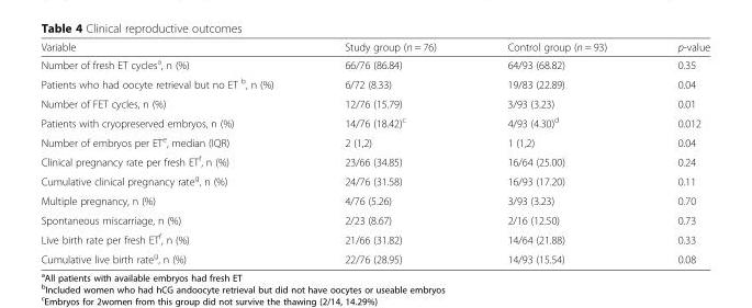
<table><thead><tr><td>Variable</td><td>Study group (n = 76)</td><td>Control group (n = 93)</td><td>p-value</td></tr></thead><tbody><tr><td>Number of fresh ET cycles<sup>a</sup>, n (%)</td><td>66/76 (86.84)</td><td>64/93 (68.82)</td><td>0.35</td></tr><tr><td>Patients who had oocyte retrieval but no ET <sup>b</sup>, n (%)</td><td>6/72 (8.33)</td><td>19/83 (22.89)</td><td>0.04</td></tr><tr><td>Number of FET cycles, n (%)</td><td>12/76 (15.79)</td><td>3/93 (3.23)</td><td>0.01</td></tr><tr><td>Patients with cryopreserved embryos, n (%)</td><td>14/76 (18.42)<sup>c</sup></td><td>4/93 (4.30)<sup>d</sup></td><td>0.012</td></tr><tr><td>Number of embryos per ET<sup>e</sup>, median (IQR)</td><td>2 (1,2)</td><td>1 (1,2)</td><td>0.04</td></tr><tr><td>Clinical pregnancy rate per fresh ET<sup>f</sup>, n (%)</td><td>23/66 (34.85)</td><td>16/64 (25.00)</td><td>0.24</td></tr><tr><td>Cumulative clinical pregnancy rate<sup>g</sup>, n (%)</td><td>24/76 (31.58)</td><td>16/93 (17.20)</td><td>0.11</td></tr><tr><td>Multiple pregnancy, n (%)</td><td>4/76 (5.26)</td><td>3/93 (3.23)</td><td>0.70</td></tr><tr><td>Spontaneous miscarriage, n (%)</td><td>2/23 (8.67)</td><td>2/16 (12.50)</td><td>0.73</td></tr><tr><td>Live birth rate per fresh ET<sup>f</sup>, n (%)</td><td>21/66 (31.82)</td><td>14/64 (21.88)</td><td>0.33</td></tr><tr><td>Cumulative live birth rate<sup>g</sup>, n (%)</td><td>22/76 (28.95)</td><td>14/93 (15.54)</td><td>0.08</td></tr></tbody></table>